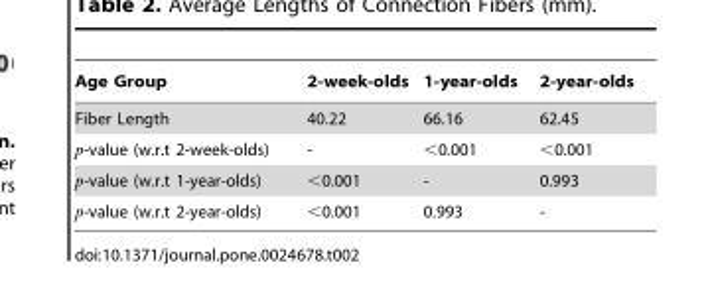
<table><thead><tr><td>Age Group</td><td>2-week-olds</td><td>1-year-olds</td><td>2-year-olds</td></tr></thead><tbody><tr><td>Fiber Length</td><td>40.22</td><td>66.16</td><td>62.45</td></tr><tr><td>p-value (w.r.t 2-week-olds)</td><td>-</td><td>&lt;0.001</td><td>&lt;0.001</td></tr><tr><td>p-value (w.r.t 1-year-olds)</td><td>&lt;0.001</td><td>-</td><td>0.993</td></tr><tr><td>p-value (w.r.t 2-year-olds)</td><td>&lt;0.001</td><td>0.993</td><td>-</td></tr></tbody></table>